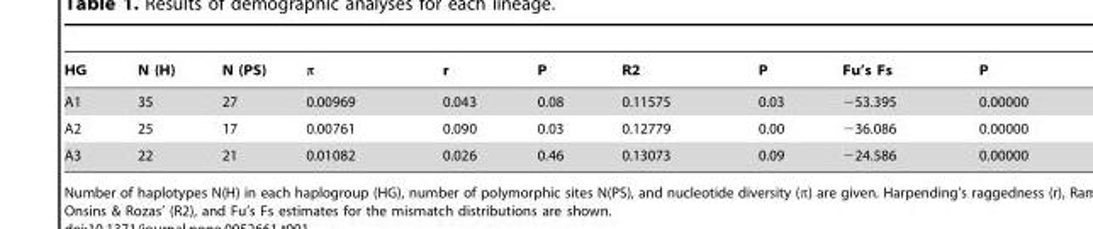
<table><thead><tr><td>HG</td><td>N (H)</td><td>N (PS)</td><td>π</td><td>r</td><td>P</td><td>R2</td><td>P</td><td>Fu’s Fs</td><td>P</td></tr></thead><tbody><tr><td>A1</td><td>35</td><td>27</td><td>0.00969</td><td>0.043</td><td>0.08</td><td>0.11575</td><td>0.03</td><td>−53.395</td><td>0.00000</td></tr><tr><td>A2</td><td>25</td><td>17</td><td>0.00761</td><td>0.090</td><td>0.03</td><td>0.12779</td><td>0.00</td><td>−36.086</td><td>0.00000</td></tr><tr><td>A3</td><td>22</td><td>21</td><td>0.01082</td><td>0.026</td><td>0.46</td><td>0.13073</td><td>0.09</td><td>−24.586</td><td>0.00000</td></tr></tbody></table>